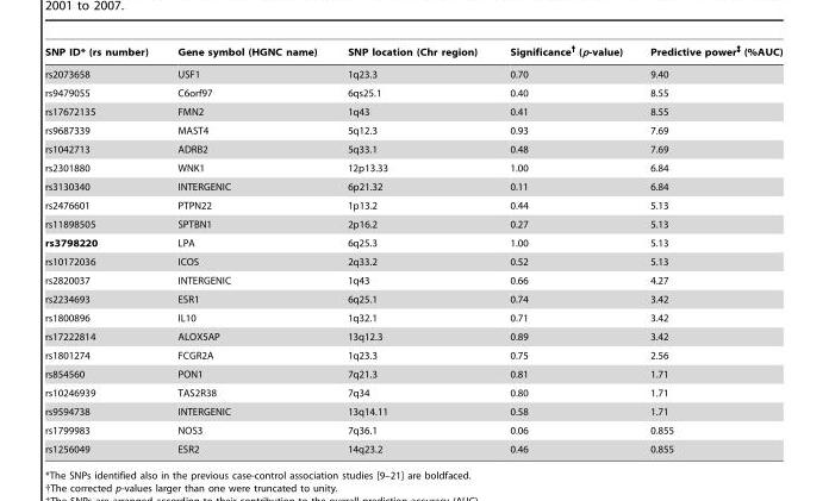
<table><thead><tr><td>SNP ID* (rs number)</td><td>Gene symbol (HGNC name)</td><td>SNP location (Chr region)</td><td>Significance† (p-value)</td><td>Predictive power‡ (%AUC)</td></tr></thead><tbody><tr><td>rs2073658</td><td>USF1</td><td>1q23.3</td><td>0.70</td><td>9.40</td></tr><tr><td>rs9479055</td><td>C6orf97</td><td>6qs25.1</td><td>0.40</td><td>8.55</td></tr><tr><td>rs17672135</td><td>FMN2</td><td>1q43</td><td>0.41</td><td>8.55</td></tr><tr><td>rs9687339</td><td>MAST4</td><td>5q12.3</td><td>0.93</td><td>7.69</td></tr><tr><td>rs1042713</td><td>ADRB2</td><td>5q33.1</td><td>0.48</td><td>7.69</td></tr><tr><td>rs2301880</td><td>WNK1</td><td>12p13.33</td><td>1.00</td><td>6.84</td></tr><tr><td>rs3130340</td><td>INTERGENIC</td><td>6p21.32</td><td>0.11</td><td>6.84</td></tr><tr><td>rs2476601</td><td>PTPN22</td><td>1p13.2</td><td>0.44</td><td>5.13</td></tr><tr><td>rs11898505</td><td>SPTBN1</td><td>2p16.2</td><td>0.27</td><td>5.13</td></tr><tr><td>rs3798220</td><td>LPA</td><td>6q25.3</td><td>1.00</td><td>5.13</td></tr><tr><td>rs10172036</td><td>ICOS</td><td>2q33.2</td><td>0.52</td><td>5.13</td></tr><tr><td>rs2820037</td><td>INTERGENIC</td><td>1q43</td><td>0.66</td><td>4.27</td></tr><tr><td>rs2234693</td><td>ESR1</td><td>6q25.1</td><td>0.74</td><td>3.42</td></tr><tr><td>rs1800896</td><td>IL10</td><td>1q32.1</td><td>0.71</td><td>3.42</td></tr><tr><td>rs17222814</td><td>ALOX5AP</td><td>13q12.3</td><td>0.89</td><td>3.42</td></tr><tr><td>rs1801274</td><td>FCGR2A</td><td>1q23.3</td><td>0.75</td><td>2.56</td></tr><tr><td>rs854560</td><td>PON1</td><td>7q21.3</td><td>0.81</td><td>1.71</td></tr><tr><td>rs10246939</td><td>TAS2R38</td><td>7q34</td><td>0.80</td><td>1.71</td></tr><tr><td>rs9594738</td><td>INTERGENIC</td><td>13q14.11</td><td>0.58</td><td>1.71</td></tr><tr><td>rs1799983</td><td>NOS3</td><td>7q36.1</td><td>0.06</td><td>0.855</td></tr><tr><td>rs1256049</td><td>ESR2</td><td>14q23.2</td><td>0.46</td><td>0.855</td></tr></tbody></table>